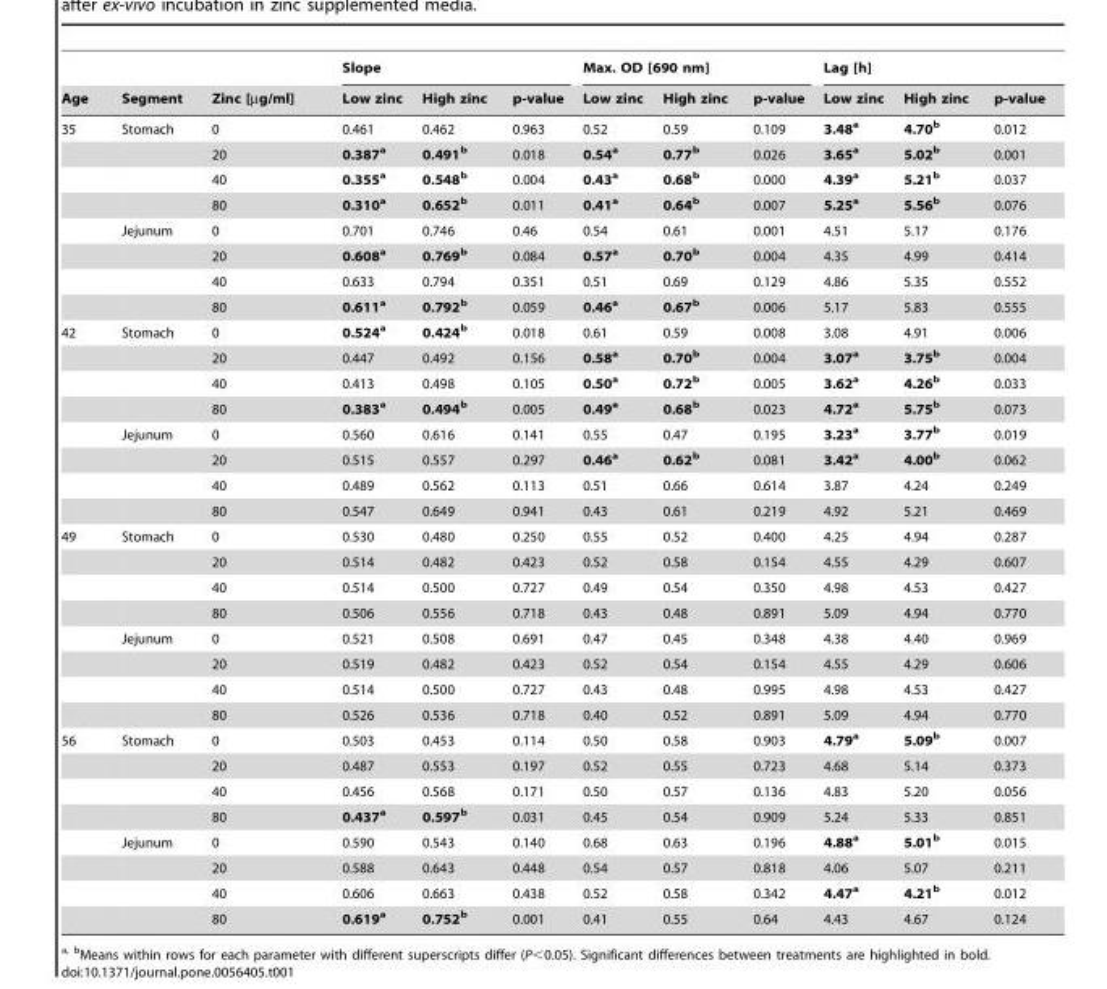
<table><thead><tr><td rowspan="2">Age</td><td rowspan="2">Segment</td><td rowspan="2">Zinc [µg/ml]</td><td colspan="3">Slope</td><td colspan="3">Max. OD [690 nm]</td><td colspan="3">Lag [h]</td></tr><tr><td>Low zinc</td><td>High zinc</td><td>p-value</td><td>Low zinc</td><td>High zinc</td><td>p-value</td><td>Low zinc</td><td>High zinc</td><td>p-value</td></tr></thead><tbody><tr><td rowspan="8">35</td><td>Stomach</td><td>0</td><td>0.461</td><td>0.462</td><td>0.963</td><td>0.52</td><td>0.59</td><td>0.109</td><td>3.48<sup>a</sup></td><td>4.70<sup>b</sup></td><td>0.012</td></tr><tr><td></td><td>20</td><td>0.387<sup>a</sup></td><td>0.491<sup>b</sup></td><td>0.018</td><td>0.54<sup>a</sup></td><td>0.77<sup>b</sup></td><td>0.026</td><td>3.65<sup>a</sup></td><td>5.02<sup>b</sup></td><td>0.001</td></tr><tr><td></td><td>40</td><td>0.355<sup>a</sup></td><td>0.548<sup>b</sup></td><td>0.004</td><td>0.43<sup>a</sup></td><td>0.68<sup>b</sup></td><td>0.000</td><td>4.39<sup>a</sup></td><td>5.21<sup>b</sup></td><td>0.037</td></tr><tr><td></td><td>80</td><td>0.310<sup>a</sup></td><td>0.652<sup>b</sup></td><td>0.011</td><td>0.41<sup>a</sup></td><td>0.64<sup>b</sup></td><td>0.007</td><td>5.25<sup>a</sup></td><td>5.56<sup>b</sup></td><td>0.076</td></tr><tr><td>Jejunum</td><td>0</td><td>0.701</td><td>0.746</td><td>0.46</td><td>0.54</td><td>0.61</td><td>0.001</td><td>4.51</td><td>5.17</td><td>0.176</td></tr><tr><td></td><td>20</td><td>0.608<sup>a</sup></td><td>0.769<sup>b</sup></td><td>0.084</td><td>0.57<sup>a</sup></td><td>0.70<sup>b</sup></td><td>0.004</td><td>4.35</td><td>4.99</td><td>0.414</td></tr><tr><td></td><td>40</td><td>0.633</td><td>0.794</td><td>0.351</td><td>0.51</td><td>0.69</td><td>0.129</td><td>4.86</td><td>5.35</td><td>0.552</td></tr><tr><td></td><td>80</td><td>0.611<sup>a</sup></td><td>0.792<sup>b</sup></td><td>0.059</td><td>0.46<sup>a</sup></td><td>0.67<sup>b</sup></td><td>0.006</td><td>5.17</td><td>5.83</td><td>0.555</td></tr><tr><td rowspan="8">42</td><td>Stomach</td><td>0</td><td>0.524<sup>a</sup></td><td>0.424<sup>b</sup></td><td>0.018</td><td>0.61</td><td>0.59</td><td>0.008</td><td>3.08</td><td>4.91</td><td>0.006</td></tr><tr><td></td><td>20</td><td>0.447</td><td>0.492</td><td>0.156</td><td>0.58<sup>a</sup></td><td>0.70<sup>b</sup></td><td>0.004</td><td>3.07<sup>a</sup></td><td>3.75<sup>b</sup></td><td>0.004</td></tr><tr><td></td><td>40</td><td>0.413</td><td>0.498</td><td>0.105</td><td>0.50<sup>a</sup></td><td>0.72<sup>b</sup></td><td>0.005</td><td>3.62<sup>a</sup></td><td>4.26<sup>b</sup></td><td>0.033</td></tr><tr><td></td><td>80</td><td>0.383<sup>a</sup></td><td>0.494<sup>b</sup></td><td>0.005</td><td>0.49<sup>a</sup></td><td>0.68<sup>b</sup></td><td>0.023</td><td>4.72<sup>a</sup></td><td>5.75<sup>b</sup></td><td>0.073</td></tr><tr><td>Jejunum</td><td>0</td><td>0.560</td><td>0.616</td><td>0.141</td><td>0.55</td><td>0.47</td><td>0.195</td><td>3.23<sup>a</sup></td><td>3.77<sup>b</sup></td><td>0.019</td></tr><tr><td></td><td>20</td><td>0.515</td><td>0.557</td><td>0.297</td><td>0.46<sup>a</sup></td><td>0.62<sup>b</sup></td><td>0.081</td><td>3.42<sup>a</sup></td><td>4.00<sup>b</sup></td><td>0.062</td></tr><tr><td></td><td>40</td><td>0.489</td><td>0.562</td><td>0.113</td><td>0.51</td><td>0.66</td><td>0.614</td><td>3.87</td><td>4.24</td><td>0.249</td></tr><tr><td></td><td>80</td><td>0.547</td><td>0.649</td><td>0.941</td><td>0.43</td><td>0.61</td><td>0.219</td><td>4.92</td><td>5.21</td><td>0.469</td></tr><tr><td rowspan="8">49</td><td>Stomach</td><td>0</td><td>0.530</td><td>0.480</td><td>0.250</td><td>0.55</td><td>0.52</td><td>0.400</td><td>4.25</td><td>4.94</td><td>0.287</td></tr><tr><td></td><td>20</td><td>0.514</td><td>0.482</td><td>0.423</td><td>0.52</td><td>0.58</td><td>0.154</td><td>4.55</td><td>4.29</td><td>0.607</td></tr><tr><td></td><td>40</td><td>0.514</td><td>0.500</td><td>0.727</td><td>0.49</td><td>0.54</td><td>0.350</td><td>4.98</td><td>4.53</td><td>0.427</td></tr><tr><td></td><td>80</td><td>0.506</td><td>0.556</td><td>0.718</td><td>0.43</td><td>0.48</td><td>0.891</td><td>5.09</td><td>4.94</td><td>0.770</td></tr><tr><td>Jejunum</td><td>0</td><td>0.521</td><td>0.508</td><td>0.691</td><td>0.47</td><td>0.45</td><td>0.348</td><td>4.38</td><td>4.40</td><td>0.969</td></tr><tr><td></td><td>20</td><td>0.519</td><td>0.482</td><td>0.423</td><td>0.52</td><td>0.54</td><td>0.154</td><td>4.55</td><td>4.29</td><td>0.606</td></tr><tr><td></td><td>40</td><td>0.514</td><td>0.500</td><td>0.727</td><td>0.43</td><td>0.48</td><td>0.995</td><td>4.98</td><td>4.53</td><td>0.427</td></tr><tr><td></td><td>80</td><td>0.526</td><td>0.536</td><td>0.718</td><td>0.40</td><td>0.52</td><td>0.891</td><td>5.09</td><td>4.94</td><td>0.770</td></tr><tr><td rowspan="8">56</td><td>Stomach</td><td>0</td><td>0.503</td><td>0.453</td><td>0.114</td><td>0.50</td><td>0.58</td><td>0.903</td><td>4.79<sup>a</sup></td><td>5.09<sup>b</sup></td><td>0.007</td></tr><tr><td></td><td>20</td><td>0.487</td><td>0.553</td><td>0.197</td><td>0.52</td><td>0.55</td><td>0.723</td><td>4.68</td><td>5.14</td><td>0.373</td></tr><tr><td></td><td>40</td><td>0.456</td><td>0.568</td><td>0.171</td><td>0.50</td><td>0.57</td><td>0.136</td><td>4.83</td><td>5.20</td><td>0.056</td></tr><tr><td></td><td>80</td><td>0.437<sup>a</sup></td><td>0.597<sup>b</sup></td><td>0.031</td><td>0.45</td><td>0.54</td><td>0.909</td><td>5.24</td><td>5.33</td><td>0.851</td></tr><tr><td>Jejunum</td><td>0</td><td>0.590</td><td>0.543</td><td>0.140</td><td>0.68</td><td>0.63</td><td>0.196</td><td>4.88<sup>a</sup></td><td>5.01<sup>b</sup></td><td>0.015</td></tr><tr><td></td><td>20</td><td>0.588</td><td>0.643</td><td>0.448</td><td>0.54</td><td>0.57</td><td>0.818</td><td>4.06</td><td>5.07</td><td>0.211</td></tr><tr><td></td><td>40</td><td>0.606</td><td>0.663</td><td>0.438</td><td>0.52</td><td>0.58</td><td>0.342</td><td>4.47<sup>a</sup></td><td>4.21<sup>b</sup></td><td>0.012</td></tr><tr><td></td><td>80</td><td>0.619<sup>a</sup></td><td>0.752<sup>b</sup></td><td>0.001</td><td>0.41</td><td>0.55</td><td>0.64</td><td>4.43</td><td>4.67</td><td>0.124</td></tr></tbody></table>